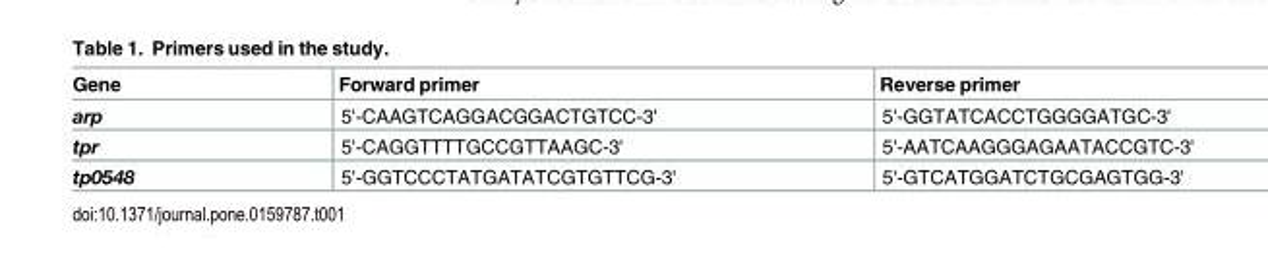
<table><thead><tr><td>Gene</td><td>Forward primer</td><td>Reverse primer</td></tr></thead><tbody><tr><td>arp</td><td>5&#x27;-CAAGTCAGGACGGACTGTCC-3&#x27;</td><td>5&#x27;-GGTATCACCTGGGGATGC-3&#x27;</td></tr><tr><td>tpr</td><td>5&#x27;-CAGGTTTTGCCGTTAAGC-3&#x27;</td><td>5&#x27;-AATCAAGGGAGAATACCGTC-3&#x27;</td></tr><tr><td>tp0548</td><td>5&#x27;-GGTCCCTATGATATCGTGTTCG-3&#x27;</td><td>5&#x27;-GTCATGGATCTGCGAGTGG-3&#x27;</td></tr></tbody></table>